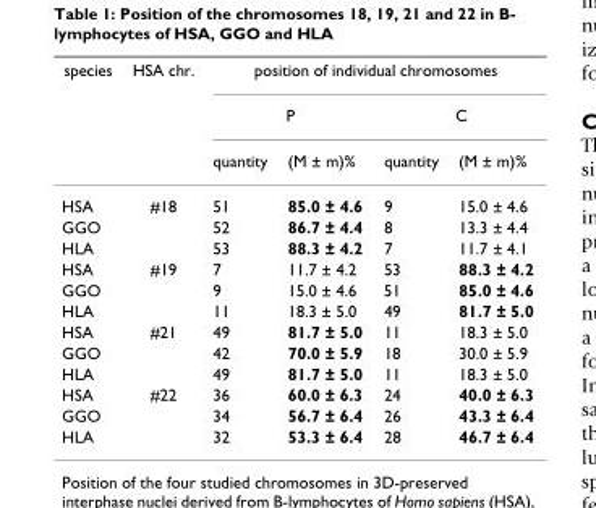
<table><thead><tr><td rowspan="3">species</td><td rowspan="3">HSA chr.</td><td colspan="4">position of individual chromosomes</td></tr><tr><td colspan="2">P</td><td colspan="2">C</td></tr><tr><td>quantity</td><td>(M ± m)%</td><td>quantity</td><td>(M ± m)%</td></tr></thead><tbody><tr><td>HSA</td><td>#18</td><td>51</td><td>85.0 ± 4.6</td><td>9</td><td>15.0 ± 4.6</td></tr><tr><td>GGO</td><td></td><td>52</td><td>86.7 ± 4.4</td><td>8</td><td>13.3 ± 4.4</td></tr><tr><td>HLA</td><td></td><td>53</td><td>88.3 ± 4.2</td><td>7</td><td>11.7 ± 4.1</td></tr><tr><td>HSA</td><td>#19</td><td>7</td><td>11.7 ± 4.2</td><td>53</td><td>88.3 ± 4.2</td></tr><tr><td>GGO</td><td></td><td>9</td><td>15.0 ± 4.6</td><td>51</td><td>85.0 ± 4.6</td></tr><tr><td>HLA</td><td></td><td>11</td><td>18.3 ± 5.0</td><td>49</td><td>81.7 ± 5.0</td></tr><tr><td>HSA</td><td>#21</td><td>49</td><td>81.7 ± 5.0</td><td>11</td><td>18.3 ± 5.0</td></tr><tr><td>GGO</td><td></td><td>42</td><td>70.0 ± 5.9</td><td>18</td><td>30.0 ± 5.9</td></tr><tr><td>HLA</td><td></td><td>49</td><td>81.7 ± 5.0</td><td>11</td><td>18.3 ± 5.0</td></tr><tr><td>HSA</td><td>#22</td><td>36</td><td>60.0 ± 6.3</td><td>24</td><td>40.0 ± 6.3</td></tr><tr><td>GGO</td><td></td><td>34</td><td>56.7 ± 6.4</td><td>26</td><td>43.3 ± 6.4</td></tr><tr><td>HLA</td><td></td><td>32</td><td>53.3 ± 6.4</td><td>28</td><td>46.7 ± 6.4</td></tr></tbody></table>